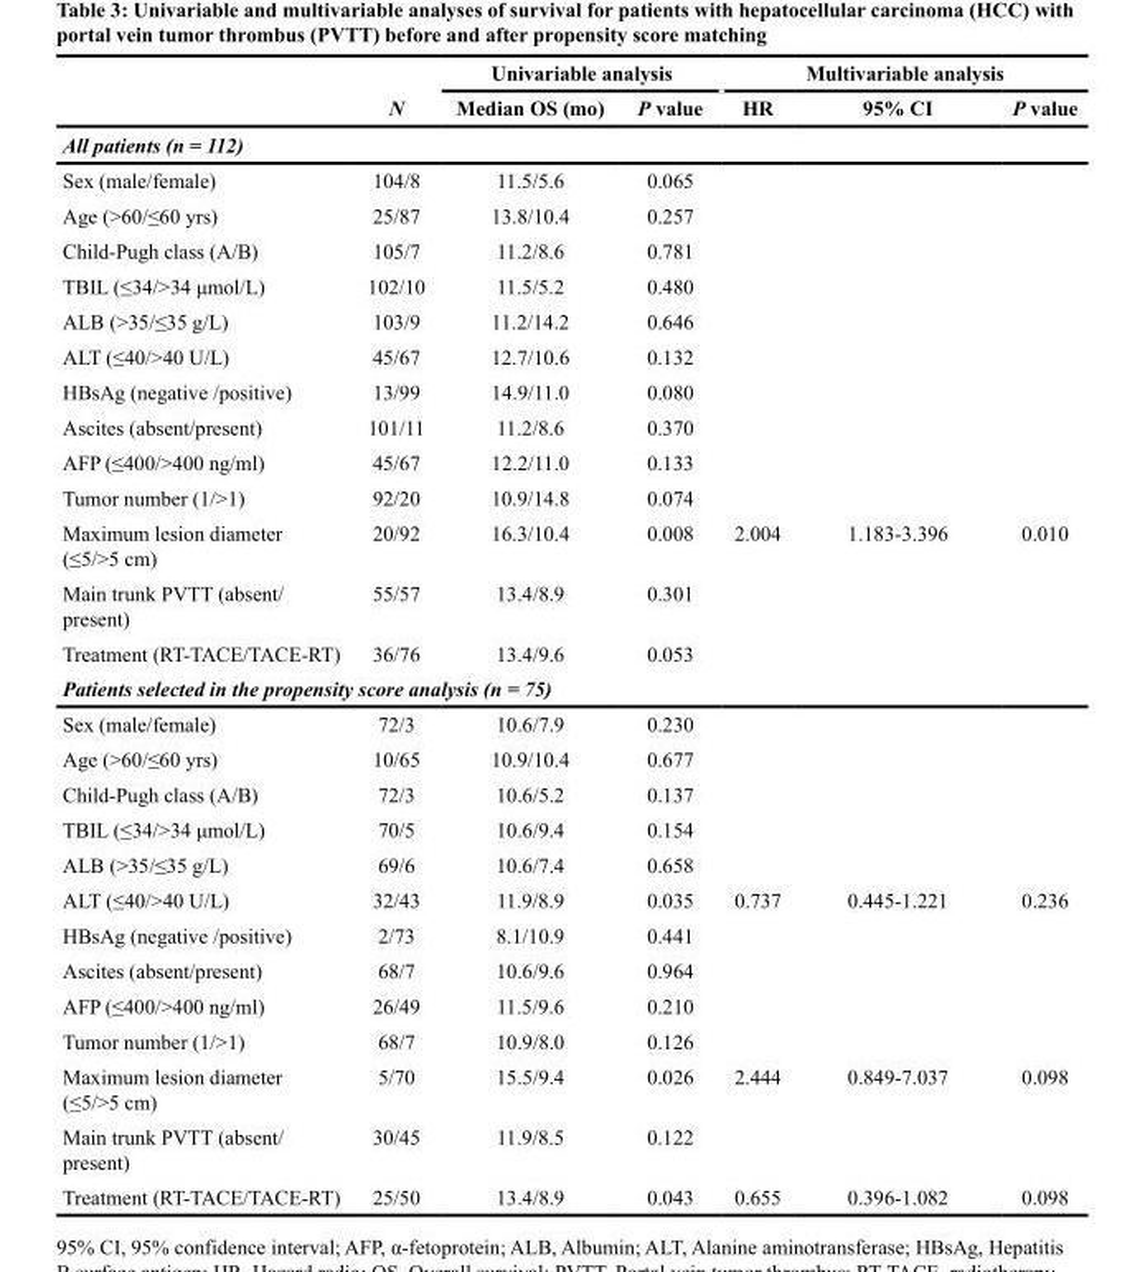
<table><thead><tr><td rowspan="2"></td><td rowspan="2">N</td><td colspan="2">Univariable analysis</td><td colspan="3">Multivariable analysis</td></tr><tr><td>Median OS (mo)</td><td>P value</td><td>HR</td><td>95% CI</td><td>P value</td></tr></thead><tbody><tr><td colspan="7">All patients (n = 112)</td></tr><tr><td>Sex (male/female)</td><td>104/8</td><td>11.5/5.6</td><td>0.065</td><td></td><td></td><td></td></tr><tr><td>Age (&gt;60/≤60 yrs)</td><td>25/87</td><td>13.8/10.4</td><td>0.257</td><td></td><td></td><td></td></tr><tr><td>Child-Pugh class (A/B)</td><td>105/7</td><td>11.2/8.6</td><td>0.781</td><td></td><td></td><td></td></tr><tr><td>TBIL (≤34/&gt;34 μmol/L)</td><td>102/10</td><td>11.5/5.2</td><td>0.480</td><td></td><td></td><td></td></tr><tr><td>ALB (&gt;35/≤35 g/L)</td><td>103/9</td><td>11.2/14.2</td><td>0.646</td><td></td><td></td><td></td></tr><tr><td>ALT (≤40/&gt;40 U/L)</td><td>45/67</td><td>12.7/10.6</td><td>0.132</td><td></td><td></td><td></td></tr><tr><td>HBsAg (negative /positive)</td><td>13/99</td><td>14.9/11.0</td><td>0.080</td><td></td><td></td><td></td></tr><tr><td>Ascites (absent/present)</td><td>101/11</td><td>11.2/8.6</td><td>0.370</td><td></td><td></td><td></td></tr><tr><td>AFP (≤400/&gt;400 ng/ml)</td><td>45/67</td><td>12.2/11.0</td><td>0.133</td><td></td><td></td><td></td></tr><tr><td>Tumor number (1/&gt;1)</td><td>92/20</td><td>10.9/14.8</td><td>0.074</td><td></td><td></td><td></td></tr><tr><td>Maximum lesion diameter (≤5/&gt;5 cm)</td><td>20/92</td><td>16.3/10.4</td><td>0.008</td><td>2.004</td><td>1.183-3.396</td><td>0.010</td></tr><tr><td>Main trunk PVTT (absent/ present)</td><td>55/57</td><td>13.4/8.9</td><td>0.301</td><td></td><td></td><td></td></tr><tr><td>Treatment (RT-TACE/TACE-RT)</td><td>36/76</td><td>13.4/9.6</td><td>0.053</td><td></td><td></td><td></td></tr><tr><td colspan="7">Patients selected in the propensity score analysis (n = 75)</td></tr><tr><td>Sex (male/female)</td><td>72/3</td><td>10.6/7.9</td><td>0.230</td><td></td><td></td><td></td></tr><tr><td>Age (&gt;60/≤60 yrs)</td><td>10/65</td><td>10.9/10.4</td><td>0.677</td><td></td><td></td><td></td></tr><tr><td>Child-Pugh class (A/B)</td><td>72/3</td><td>10.6/5.2</td><td>0.137</td><td></td><td></td><td></td></tr><tr><td>TBIL (≤34/&gt;34 μmol/L)</td><td>70/5</td><td>10.6/9.4</td><td>0.154</td><td></td><td></td><td></td></tr><tr><td>ALB (&gt;35/≤35 g/L)</td><td>69/6</td><td>10.6/7.4</td><td>0.658</td><td></td><td></td><td></td></tr><tr><td>ALT (≤40/&gt;40 U/L)</td><td>32/43</td><td>11.9/8.9</td><td>0.035</td><td>0.737</td><td>0.445-1.221</td><td>0.236</td></tr><tr><td>HBsAg (negative /positive)</td><td>2/73</td><td>8.1/10.9</td><td>0.441</td><td></td><td></td><td></td></tr><tr><td>Ascites (absent/present)</td><td>68/7</td><td>10.6/9.6</td><td>0.964</td><td></td><td></td><td></td></tr><tr><td>AFP (≤400/&gt;400 ng/ml)</td><td>26/49</td><td>11.5/9.6</td><td>0.210</td><td></td><td></td><td></td></tr><tr><td>Tumor number (1/&gt;1)</td><td>68/7</td><td>10.9/8.0</td><td>0.126</td><td></td><td></td><td></td></tr><tr><td>Maximum lesion diameter (≤5/&gt;5 cm)</td><td>5/70</td><td>15.5/9.4</td><td>0.026</td><td>2.444</td><td>0.849-7.037</td><td>0.098</td></tr><tr><td>Main trunk PVTT (absent/ present)</td><td>30/45</td><td>11.9/8.5</td><td>0.122</td><td></td><td></td><td></td></tr><tr><td>Treatment (RT-TACE/TACE-RT)</td><td>25/50</td><td>13.4/8.9</td><td>0.043</td><td>0.655</td><td>0.396-1.082</td><td>0.098</td></tr></tbody></table>